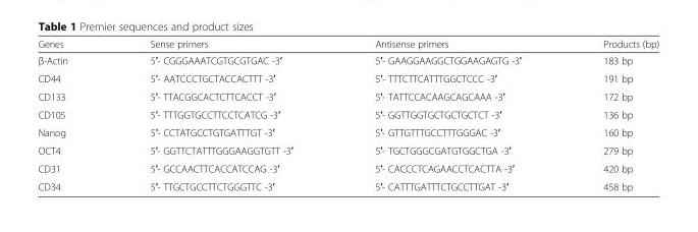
<table><thead><tr><td>Genes</td><td>Sense primers</td><td>Antisense primers</td><td>Products (bp)</td></tr></thead><tbody><tr><td>β-Actin</td><td>5′- CGGGAAATCGTGCGTGAC -3′</td><td>5′- GAAGGAAGGCTGGAAGAGTG -3′</td><td>183 bp</td></tr><tr><td>CD44</td><td>5′- AATCCCTGCTACCACTTT -3′</td><td>5′- TTTCTTCATTTGGCTCCC -3′</td><td>191 bp</td></tr><tr><td>CD133</td><td>5′- TTACGGCACTCTTCACCT -3′</td><td>5′- TATTCCACAAGCAGCAAA -3′</td><td>172 bp</td></tr><tr><td>CD105</td><td>5′- TTTGGTGCCTTCCTCATCG -3′</td><td>5′- GGTTGGTGCTGCTGCTCT -3′</td><td>136 bp</td></tr><tr><td>Nanog</td><td>5′- CCTATGCCTGTGATTTGT -3′</td><td>5′- GTTGTTTGCCTTTGGGAC -3′</td><td>160 bp</td></tr><tr><td>OCT4</td><td>5′- GGTTCTATTTGGGAAGGTGTT -3′</td><td>5′- TGCTGGGCGATGTGGCTGA -3′</td><td>279 bp</td></tr><tr><td>CD31</td><td>5′- GCCAACTTCACCATCCAG -3′</td><td>5′- CACCCTCAGAACCTCACTTA -3′</td><td>420 bp</td></tr><tr><td>CD34</td><td>5′- TTGCTGCCTTCTGGGTTC -3′</td><td>5′- CATTTGATTTCTGCCTTGAT -3′</td><td>458 bp</td></tr></tbody></table>